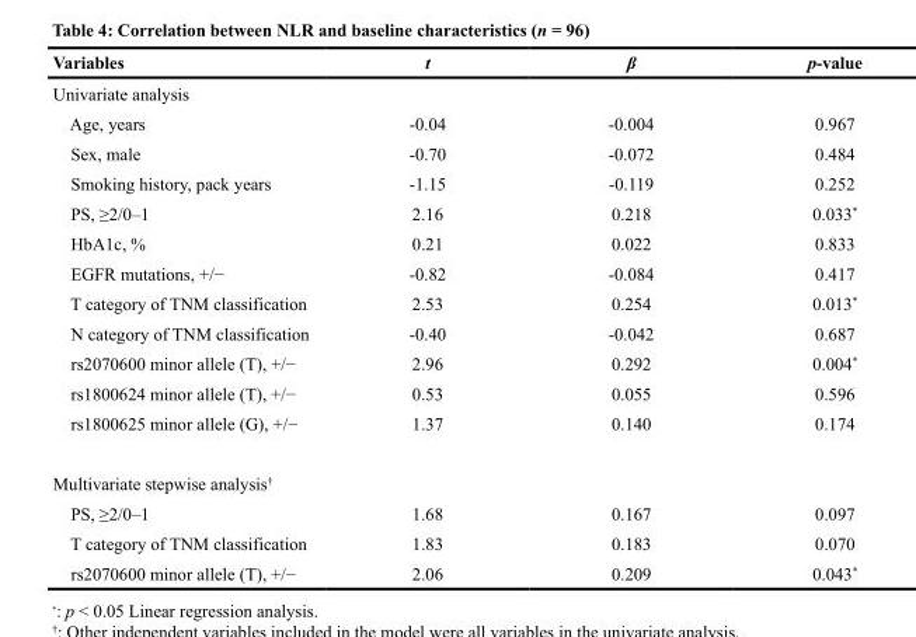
<table><thead><tr><td>Variables</td><td>t</td><td>β</td><td>p-value</td></tr></thead><tbody><tr><td colspan="4">Univariate analysis</td></tr><tr><td>Age, years</td><td>-0.04</td><td>-0.004</td><td>0.967</td></tr><tr><td>Sex, male</td><td>-0.70</td><td>-0.072</td><td>0.484</td></tr><tr><td>Smoking history, pack years</td><td>-1.15</td><td>-0.119</td><td>0.252</td></tr><tr><td>PS, ≥2/0–1</td><td>2.16</td><td>0.218</td><td>0.033*</td></tr><tr><td>HbA1c, %</td><td>0.21</td><td>0.022</td><td>0.833</td></tr><tr><td>EGFR mutations, +/−</td><td>-0.82</td><td>-0.084</td><td>0.417</td></tr><tr><td>T category of TNM classification</td><td>2.53</td><td>0.254</td><td>0.013*</td></tr><tr><td>N category of TNM classification</td><td>-0.40</td><td>-0.042</td><td>0.687</td></tr><tr><td>rs2070600 minor allele (T), +/−</td><td>2.96</td><td>0.292</td><td>0.004*</td></tr><tr><td>rs1800624 minor allele (T), +/−</td><td>0.53</td><td>0.055</td><td>0.596</td></tr><tr><td>rs1800625 minor allele (G), +/−</td><td>1.37</td><td>0.140</td><td>0.174</td></tr><tr><td colspan="4">Multivariate stepwise analysis<sup>†</sup></td></tr><tr><td>PS, ≥2/0–1</td><td>1.68</td><td>0.167</td><td>0.097</td></tr><tr><td>T category of TNM classification</td><td>1.83</td><td>0.183</td><td>0.070</td></tr><tr><td>rs2070600 minor allele (T), +/−</td><td>2.06</td><td>0.209</td><td>0.043*</td></tr></tbody></table>